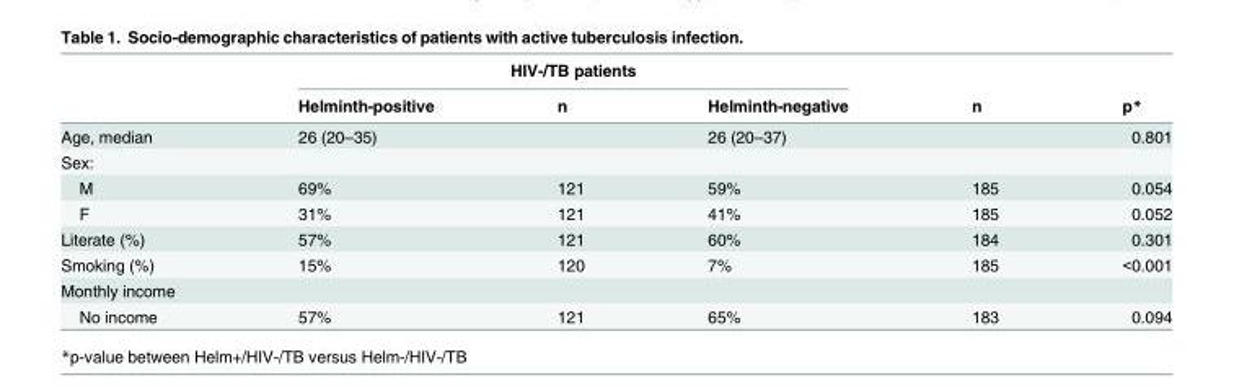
<table><thead><tr><td rowspan="2"></td><td colspan="3">HIV-/TB patients</td><td rowspan="2">n</td><td rowspan="2">p*</td></tr><tr><td>Helminth-positive</td><td>n</td><td>Helminth-negative</td></tr></thead><tbody><tr><td>Age, median</td><td>26 (20–35)</td><td></td><td>26 (20–37)</td><td></td><td>0.801</td></tr><tr><td colspan="6">Sex:</td></tr><tr><td>M</td><td>69%</td><td>121</td><td>59%</td><td>185</td><td>0.054</td></tr><tr><td>F</td><td>31%</td><td>121</td><td>41%</td><td>185</td><td>0.052</td></tr><tr><td>Literate (%)</td><td>57%</td><td>121</td><td>60%</td><td>184</td><td>0.301</td></tr><tr><td>Smoking (%)</td><td>15%</td><td>120</td><td>7%</td><td>185</td><td>&lt;0.001</td></tr><tr><td colspan="6">Monthly income</td></tr><tr><td>No income</td><td>57%</td><td>121</td><td>65%</td><td>183</td><td>0.094</td></tr></tbody></table>